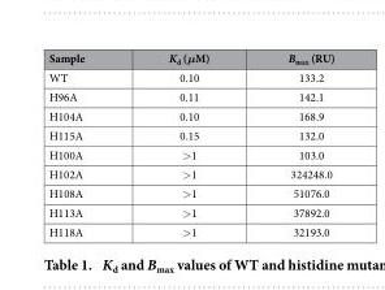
<table><thead><tr><td>Sample</td><td>K<sub>d</sub> (μM)</td><td>B<sub>max</sub> (RU)</td></tr></thead><tbody><tr><td>WT</td><td>0.10</td><td>133.2</td></tr><tr><td>H96A</td><td>0.11</td><td>142.1</td></tr><tr><td>H104A</td><td>0.10</td><td>168.9</td></tr><tr><td>H115A</td><td>0.15</td><td>132.0</td></tr><tr><td>H100A</td><td>&gt; 1</td><td>103.0</td></tr><tr><td>H102A</td><td>&gt; 1</td><td>324248.0</td></tr><tr><td>H108A</td><td>&gt; 1</td><td>51076.0</td></tr><tr><td>H113A</td><td>&gt; 1</td><td>37892.0</td></tr><tr><td>H118A</td><td>&gt; 1</td><td>32193.0</td></tr></tbody></table>